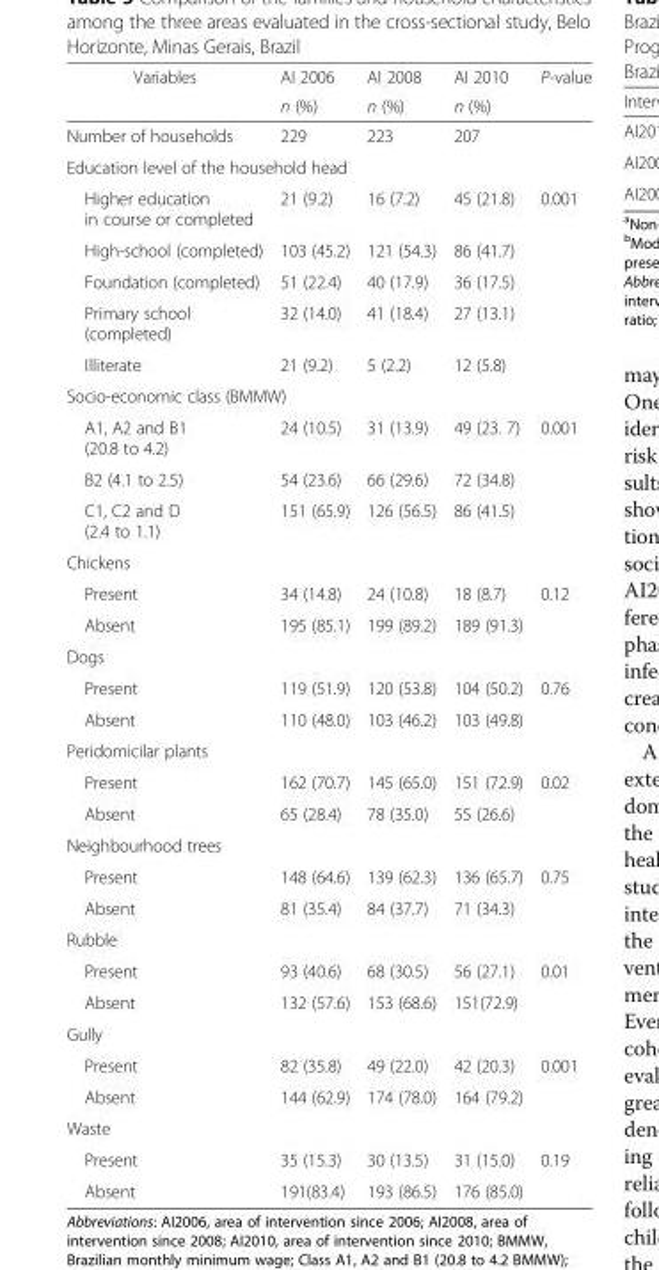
<table><thead><tr><td rowspan="2">Variables</td><td rowspan="2">AI 2006 n (%)</td><td rowspan="2">AI 2008 n (%)</td><td rowspan="2">AI 2010 n (%)</td><td rowspan="2">P-value</td></tr><tr></tr></thead><tbody><tr><td>Number of households</td><td>229</td><td>223</td><td>207</td><td></td></tr><tr><td colspan="5">Education level of the household head</td></tr><tr><td>Higher education in course or completed</td><td>21 (9.2)</td><td>16 (7.2)</td><td>45 (21.8)</td><td rowspan="5">0.001</td></tr><tr><td>High-school (completed)</td><td>103 (45.2)</td><td>121 (54.3)</td><td>86 (41.7)</td></tr><tr><td>Foundation (completed)</td><td>51 (22.4)</td><td>40 (17.9)</td><td>36 (17.5)</td></tr><tr><td>Primary school (completed)</td><td>32 (14.0)</td><td>41 (18.4)</td><td>27 (13.1)</td></tr><tr><td>Illiterate</td><td>21 (9.2)</td><td>5 (2.2)</td><td>12 (5.8)</td></tr><tr><td colspan="5">Socio-economic class (BMMW)</td></tr><tr><td>A1, A2 and B1 (20.8 to 4.2)</td><td>24 (10.5)</td><td>31 (13.9)</td><td>49 (23. 7)</td><td rowspan="3">0.001</td></tr><tr><td>B2 (4.1 to 2.5)</td><td>54 (23.6)</td><td>66 (29.6)</td><td>72 (34.8)</td></tr><tr><td>C1, C2 and D (2.4 to 1.1)</td><td>151 (65.9)</td><td>126 (56.5)</td><td>86 (41.5)</td></tr><tr><td colspan="5">Chickens</td></tr><tr><td>Present</td><td>34 (14.8)</td><td>24 (10.8)</td><td>18 (8.7)</td><td rowspan="2">0.12</td></tr><tr><td>Absent</td><td>195 (85.1)</td><td>199 (89.2)</td><td>189 (91.3)</td></tr><tr><td colspan="5">Dogs</td></tr><tr><td>Present</td><td>119 (51.9)</td><td>120 (53.8)</td><td>104 (50.2)</td><td rowspan="2">0.76</td></tr><tr><td>Absent</td><td>110 (48.0)</td><td>103 (46.2)</td><td>103 (49.8)</td></tr><tr><td colspan="5">Peridomicilar plants</td></tr><tr><td>Present</td><td>162 (70.7)</td><td>145 (65.0)</td><td>151 (72.9)</td><td rowspan="2">0.02</td></tr><tr><td>Absent</td><td>65 (28.4)</td><td>78 (35.0)</td><td>55 (26.6)</td></tr><tr><td colspan="5">Neighbourhood trees</td></tr><tr><td>Present</td><td>148 (64.6)</td><td>139 (62.3)</td><td>136 (65.7)</td><td rowspan="2">0.75</td></tr><tr><td>Absent</td><td>81 (35.4)</td><td>84 (37.7)</td><td>71 (34.3)</td></tr><tr><td colspan="5">Rubble</td></tr><tr><td>Present</td><td>93 (40.6)</td><td>68 (30.5)</td><td>56 (27.1)</td><td rowspan="2">0.01</td></tr><tr><td>Absent</td><td>132 (57.6)</td><td>153 (68.6)</td><td>151(72.9)</td></tr><tr><td colspan="5">Gully</td></tr><tr><td>Present</td><td>82 (35.8)</td><td>49 (22.0)</td><td>42 (20.3)</td><td rowspan="2">0.001</td></tr><tr><td>Absent</td><td>144 (62.9)</td><td>174 (78.0)</td><td>164 (79.2)</td></tr><tr><td colspan="5">Waste</td></tr><tr><td>Present</td><td>35 (15.3)</td><td>30 (13.5)</td><td>31 (15.0)</td><td rowspan="2">0.19</td></tr><tr><td>Absent</td><td>191(83.4)</td><td>193 (86.5)</td><td>176 (85.0)</td></tr></tbody></table>